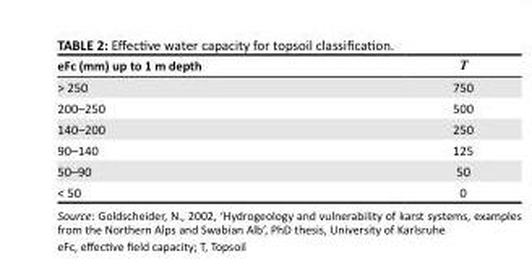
<table><thead><tr><td>eFc (mm) up to 1 m depth</td><td>T</td></tr></thead><tbody><tr><td>&gt; 250</td><td>750</td></tr><tr><td>200–250</td><td>500</td></tr><tr><td>140–200</td><td>250</td></tr><tr><td>90–140</td><td>125</td></tr><tr><td>50–90</td><td>50</td></tr><tr><td>&lt; 50</td><td>0</td></tr></tbody></table>